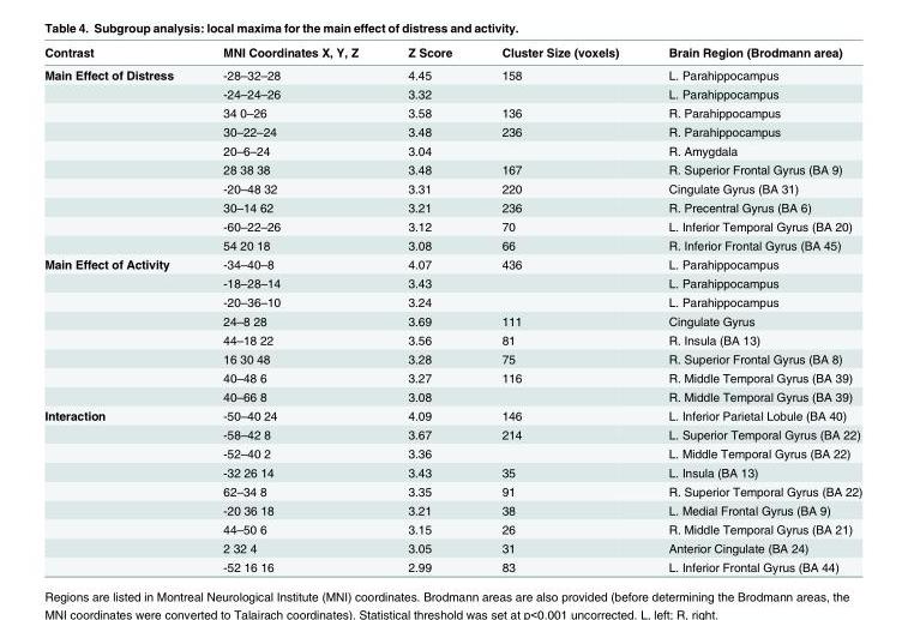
<table><thead><tr><td>Contrast</td><td>MNI Coordinates X, Y, Z</td><td>Z Score</td><td>Cluster Size (voxels)</td><td>Brain Region (Brodmann area)</td></tr></thead><tbody><tr><td rowspan="10">Main Effect of Distress</td><td>-28–32–28</td><td>4.45</td><td>158</td><td>L. Parahippocampus</td></tr><tr><td>-24–24–26</td><td>3.32</td><td></td><td>L. Parahippocampus</td></tr><tr><td>34 0–26</td><td>3.58</td><td>136</td><td>R. Parahippocampus</td></tr><tr><td>30–22–24</td><td>3.48</td><td>236</td><td>R. Parahippocampus</td></tr><tr><td>20–6–24</td><td>3.04</td><td></td><td>R. Amygdala</td></tr><tr><td>28 38 38</td><td>3.48</td><td>167</td><td>R. Superior Frontal Gyrus (BA 9)</td></tr><tr><td>-20–48 32</td><td>3.31</td><td>220</td><td>Cingulate Gyrus (BA 31)</td></tr><tr><td>30–14 62</td><td>3.21</td><td>236</td><td>R. Precentral Gyrus (BA 6)</td></tr><tr><td>-60–22–26</td><td>3.12</td><td>70</td><td>L. Inferior Temporal Gyrus (BA 20)</td></tr><tr><td>54 20 18</td><td>3.08</td><td>66</td><td>R. Inferior Frontal Gyrus (BA 45)</td></tr><tr><td rowspan="8">Main Effect of Activity</td><td>-34–40–8</td><td>4.07</td><td>436</td><td>L. Parahippocampus</td></tr><tr><td>-18–28–14</td><td>3.43</td><td></td><td>L. Parahippocampus</td></tr><tr><td>-20–36–10</td><td>3.24</td><td></td><td>L. Parahippocampus</td></tr><tr><td>24–8 28</td><td>3.69</td><td>111</td><td>Cingulate Gyrus</td></tr><tr><td>44–18 22</td><td>3.56</td><td>81</td><td>R. Insula (BA 13)</td></tr><tr><td>16 30 48</td><td>3.28</td><td>75</td><td>R. Superior Frontal Gyrus (BA 8)</td></tr><tr><td>40–48 6</td><td>3.27</td><td>116</td><td>R. Middle Temporal Gyrus (BA 39)</td></tr><tr><td>40–66 8</td><td>3.08</td><td></td><td>R. Middle Temporal Gyrus (BA 39)</td></tr><tr><td rowspan="9">Interaction</td><td>-50–40 24</td><td>4.09</td><td>146</td><td>L. Inferior Parietal Lobule (BA 40)</td></tr><tr><td>-58–42 8</td><td>3.67</td><td>214</td><td>L. Superior Temporal Gyrus (BA 22)</td></tr><tr><td>-52–40 2</td><td>3.36</td><td></td><td>L. Middle Temporal Gyrus (BA 22)</td></tr><tr><td>-32 26 14</td><td>3.43</td><td>35</td><td>L. Insula (BA 13)</td></tr><tr><td>62–34 8</td><td>3.35</td><td>91</td><td>R. Superior Temporal Gyrus (BA 22)</td></tr><tr><td>-20 36 18</td><td>3.21</td><td>38</td><td>L. Medial Frontal Gyrus (BA 9)</td></tr><tr><td>44–50 6</td><td>3.15</td><td>26</td><td>R. Middle Temporal Gyrus (BA 21)</td></tr><tr><td>2 32 4</td><td>3.05</td><td>31</td><td>Anterior Cingulate (BA 24)</td></tr><tr><td>-52 16 16</td><td>2.99</td><td>83</td><td>L. Inferior Frontal Gyrus (BA 44)</td></tr></tbody></table>